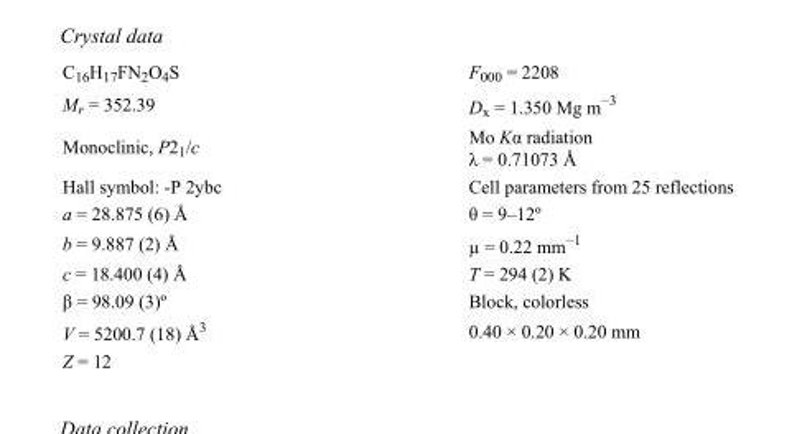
<table><tbody><tr><td>C<sub>16</sub>H<sub>17</sub>FN<sub>2</sub>O<sub>4</sub>S</td><td>F<sub>000</sub> = 2208</td></tr><tr><td>M<sub>r</sub> = 352.39</td><td>D<sub>x</sub> = 1.350 Mg m<sup>−3</sup></td></tr><tr><td>Monoclinic, P2<sub>1</sub>/c</td><td>Mo Kα radiation λ = 0.71073 Å</td></tr><tr><td>Hall symbol: -P 2ybc</td><td>Cell parameters from 25 reflections</td></tr><tr><td>a = 28.875 (6) Å</td><td>θ = 9–12º</td></tr><tr><td>b = 9.887 (2) Å</td><td>µ = 0.22 mm<sup>−1</sup></td></tr><tr><td>c = 18.400 (4) Å</td><td>T = 294 (2) K</td></tr><tr><td>β = 98.09 (3)º</td><td>Block, colorless</td></tr><tr><td>V = 5200.7 (18) Å<sup>3</sup></td><td>0.40 × 0.20 × 0.20 mm</td></tr><tr><td>Z = 12</td><td></td></tr></tbody></table>